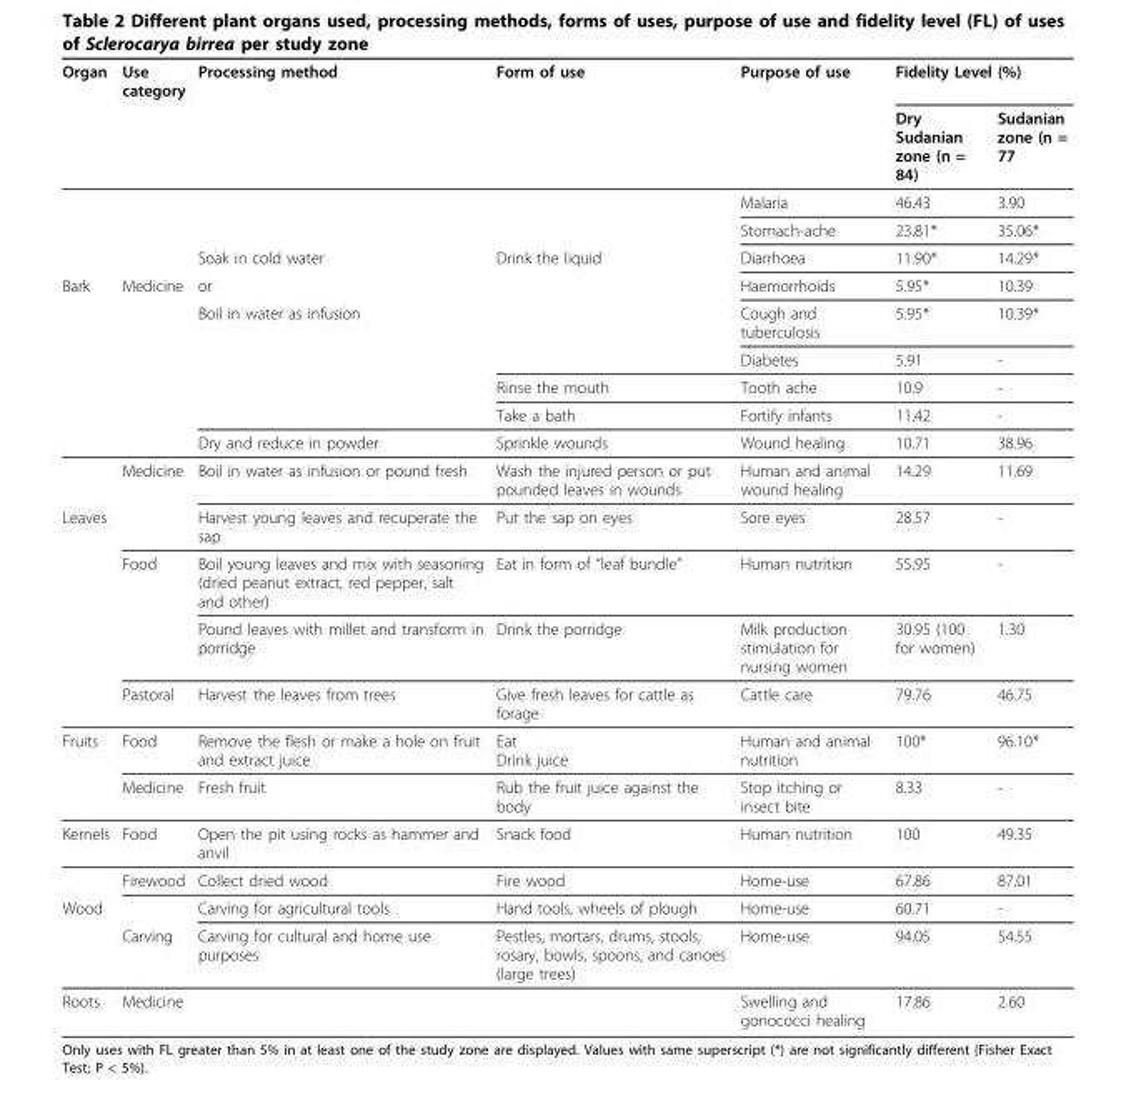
<table><thead><tr><td rowspan="2">Organ</td><td rowspan="2">Use category</td><td rowspan="2">Processing method</td><td rowspan="2">Form of use</td><td rowspan="2">Purpose of use</td><td colspan="2">Fidelity Level (%)</td></tr><tr><td>Dry Sudanian zone (n = 84)</td><td>Sudanian zone (n = 77</td></tr></thead><tbody><tr><td></td><td></td><td></td><td></td><td>Malaria</td><td>46.43</td><td>3.90</td></tr><tr><td></td><td></td><td></td><td></td><td>Stomach-ache</td><td>23.81*</td><td>35.06*</td></tr><tr><td></td><td></td><td>Soak in cold water</td><td>Drink the liquid</td><td>Diarrhoea</td><td>11.90*</td><td>14.29*</td></tr><tr><td rowspan="7">Bark</td><td>Medicine</td><td>or</td><td></td><td>Haemorrhoids</td><td>5.95*</td><td>10.39</td></tr><tr><td></td><td>Boil in water as infusion</td><td></td><td>Cough and tuberculosis</td><td>5.95*</td><td>10.39*</td></tr><tr><td></td><td></td><td></td><td>Diabetes</td><td>5.91</td><td>-</td></tr><tr><td></td><td></td><td>Rinse the mouth</td><td>Tooth ache</td><td>10.9</td><td>-</td></tr><tr><td></td><td></td><td>Take a bath</td><td>Fortify infants</td><td>11.42</td><td>-</td></tr><tr><td></td><td>Dry and reduce in powder</td><td>Sprinkle wounds</td><td>Wound healing</td><td>10.71</td><td>38.96</td></tr><tr><td>Medicine</td><td>Boil in water as infusion or pound fresh</td><td>Wash the injured person or put pounded leaves in wounds</td><td>Human and animal wound healing</td><td>14.29</td><td>11.69</td></tr><tr><td rowspan="4">Leaves</td><td></td><td>Harvest young leaves and recuperate the sap</td><td>Put the sap on eyes</td><td>Sore eyes</td><td>28.57</td><td>-</td></tr><tr><td>Food</td><td>Boil young leaves and mix with seasoning (dried peanut extract, red pepper, salt and other)</td><td>Eat in form of “leaf bundle”</td><td>Human nutrition</td><td>55.95</td><td>-</td></tr><tr><td></td><td>Pound leaves with millet and transform in porridge</td><td>Drink the porridge</td><td>Milk production stimulation for nursing women</td><td>30.95 (100 for women)</td><td>1.30</td></tr><tr><td>Pastoral</td><td>Harvest the leaves from trees</td><td>Give fresh leaves for cattle as forage</td><td>Cattle care</td><td>79.76</td><td>46.75</td></tr><tr><td rowspan="2">Fruits</td><td>Food</td><td>Remove the flesh or make a hole on fruit and extract juice</td><td>Eat Drink juice</td><td>Human and animal nutrition</td><td>100*</td><td>96.10*</td></tr><tr><td>Medicine</td><td>Fresh fruit</td><td>Rub the fruit juice against the body</td><td>Stop itching or insect bite</td><td>8.33</td><td>-</td></tr><tr><td rowspan="2">Kernels</td><td>Food</td><td>Open the pit using rocks as hammer and anvil</td><td>Snack food</td><td>Human nutrition</td><td>100</td><td>49.35</td></tr><tr><td>Firewood</td><td>Collect dried wood</td><td>Fire wood</td><td>Home-use</td><td>67.86</td><td>87.01</td></tr><tr><td rowspan="2">Wood</td><td></td><td>Carving for agricultural tools</td><td>Hand tools, wheels of plough</td><td>Home-use</td><td>60.71</td><td>-</td></tr><tr><td>Carving</td><td>Carving for cultural and home use purposes</td><td>Pestles, mortars, drums, stools, rosary, bowls, spoons, and canoes (large trees)</td><td>Home-use</td><td>94.05</td><td>54.55</td></tr><tr><td>Roots</td><td>Medicine</td><td></td><td></td><td>Swelling and gonococci healing</td><td>17.86</td><td>2.60</td></tr></tbody></table>